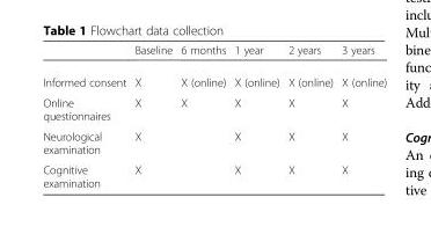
<table><thead><tr><td></td><td>Baseline</td><td>6 months</td><td>1 year</td><td>2 years</td><td>3 years</td></tr></thead><tbody><tr><td>Informed consent</td><td>X</td><td>X (online)</td><td>X (online)</td><td>X (online)</td><td>X (online)</td></tr><tr><td>Online questionnaires</td><td>X</td><td>X</td><td>X</td><td>X</td><td>X</td></tr><tr><td>Neurological examination</td><td>X</td><td></td><td>X</td><td>X</td><td>X</td></tr><tr><td>Cognitive examination</td><td>X</td><td></td><td>X</td><td>X</td><td>X</td></tr></tbody></table>